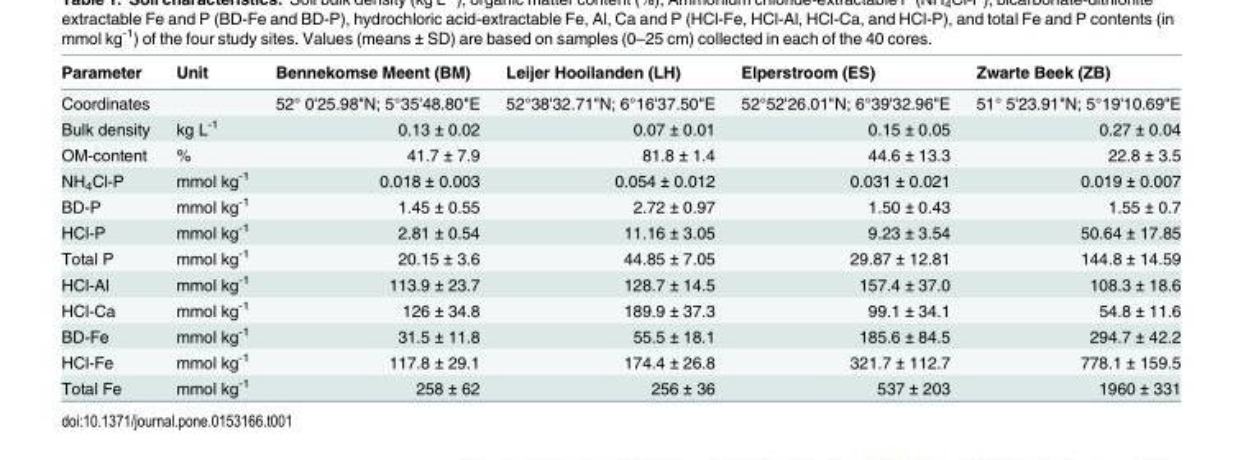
<table><thead><tr><td>Parameter</td><td>Unit</td><td>Bennekomse Meent (BM)</td><td>Leijer Hooilanden (LH)</td><td>Elperstroom (ES)</td><td>Zwarte Beek (ZB)</td></tr></thead><tbody><tr><td>Coordinates</td><td></td><td>52° 0&#x27;25.98&quot;N; 5°35&#x27;48.80&quot;E</td><td>52°38&#x27;32.71&quot;N; 6°16&#x27;37.50&quot;E</td><td>52°52&#x27;26.01&quot;N; 6°39&#x27;32.96&quot;E</td><td>51° 5&#x27;23.91&quot;N; 5°19&#x27;10.69&quot;E</td></tr><tr><td>Bulk density</td><td>kg L<sup>-1</sup></td><td>0.13 ± 0.02</td><td>0.07 ± 0.01</td><td>0.15 ± 0.05</td><td>0.27 ± 0.04</td></tr><tr><td>OM-content</td><td>%</td><td>41.7 ± 7.9</td><td>81.8 ± 1.4</td><td>44.6 ± 13.3</td><td>22.8 ± 3.5</td></tr><tr><td>NH<sub>4</sub>Cl-P</td><td>mmol kg<sup>-1</sup></td><td>0.018 ± 0.003</td><td>0.054 ± 0.012</td><td>0.031 ± 0.021</td><td>0.019 ± 0.007</td></tr><tr><td>BD-P</td><td>mmol kg<sup>-1</sup></td><td>1.45 ± 0.55</td><td>2.72 ± 0.97</td><td>1.50 ± 0.43</td><td>1.55 ± 0.7</td></tr><tr><td>HCl-P</td><td>mmol kg<sup>-1</sup></td><td>2.81 ± 0.54</td><td>11.16 ± 3.05</td><td>9.23 ± 3.54</td><td>50.64 ± 17.85</td></tr><tr><td>Total P</td><td>mmol kg<sup>-1</sup></td><td>20.15 ± 3.6</td><td>44.85 ± 7.05</td><td>29.87 ± 12.81</td><td>144.8 ± 14.59</td></tr><tr><td>HCl-Al</td><td>mmol kg<sup>-1</sup></td><td>113.9 ± 23.7</td><td>128.7 ± 14.5</td><td>157.4 ± 37.0</td><td>108.3 ± 18.6</td></tr><tr><td>HCl-Ca</td><td>mmol kg<sup>-1</sup></td><td>126 ± 34.8</td><td>189.9 ± 37.3</td><td>99.1 ± 34.1</td><td>54.8 ± 11.6</td></tr><tr><td>BD-Fe</td><td>mmol kg<sup>-1</sup></td><td>31.5 ± 11.8</td><td>55.5 ± 18.1</td><td>185.6 ± 84.5</td><td>294.7 ± 42.2</td></tr><tr><td>HCl-Fe</td><td>mmol kg<sup>-1</sup></td><td>117.8 ± 29.1</td><td>174.4 ± 26.8</td><td>321.7 ± 112.7</td><td>778.1 ± 159.5</td></tr><tr><td>Total Fe</td><td>mmol kg<sup>-1</sup></td><td>258 ± 62</td><td>256 ± 36</td><td>537 ± 203</td><td>1960 ± 331</td></tr></tbody></table>